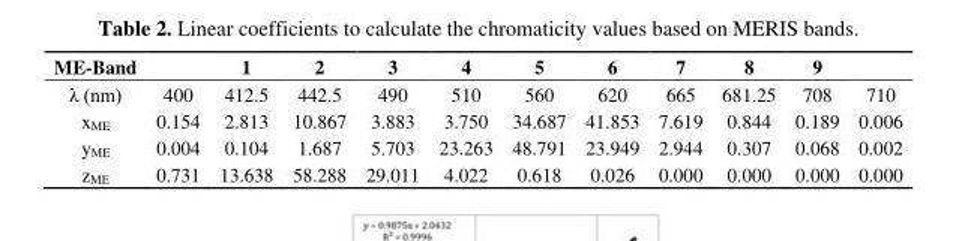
<table><thead><tr><td>ME-Band</td><td></td><td>1</td><td>2</td><td>3</td><td>4</td><td>5</td><td>6</td><td>7</td><td>8</td><td>9</td><td></td></tr></thead><tbody><tr><td>λ (nm)</td><td>400</td><td>412.5</td><td>442.5</td><td>490</td><td>510</td><td>560</td><td>620</td><td>665</td><td>681.25</td><td>708</td><td>710</td></tr><tr><td>x<sub>ME</sub></td><td>0.154</td><td>2.813</td><td>10.867</td><td>3.883</td><td>3.750</td><td>34.687</td><td>41.853</td><td>7.619</td><td>0.844</td><td>0.189</td><td>0.006</td></tr><tr><td>y<sub>ME</sub></td><td>0.004</td><td>0.104</td><td>1.687</td><td>5.703</td><td>23.263</td><td>48.791</td><td>23.949</td><td>2.944</td><td>0.307</td><td>0.068</td><td>0.002</td></tr><tr><td>z<sub>ME</sub></td><td>0.731</td><td>13.638</td><td>58.288</td><td>29.011</td><td>4.022</td><td>0.618</td><td>0.026</td><td>0.000</td><td>0.000</td><td>0.000</td><td>0.000</td></tr></tbody></table>